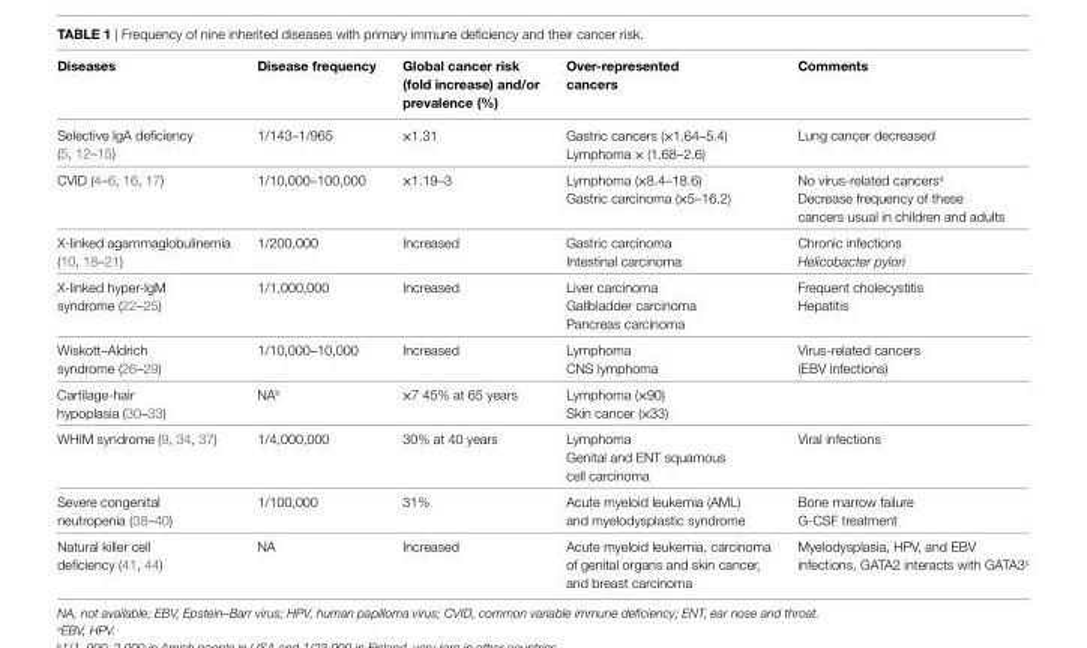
<table><thead><tr><td>Diseases</td><td>Disease frequency</td><td>Global cancer risk (fold increase) and/or prevalence (%)</td><td>Over-represented cancers</td><td>Comments</td></tr></thead><tbody><tr><td>Selective IgA deficiency (5, 12–15)</td><td>1/143–1/965</td><td>×1.31</td><td>Gastric cancers (×1.64–5.4) Lymphoma × (1.68–2.6)</td><td>Lung cancer decreased</td></tr><tr><td>CVID (4–6, 16, 17)</td><td>1/10,000–100,000</td><td>×1.19–3</td><td>Lymphoma (×8.4–18.6) Gastric carcinoma (×5–16.2)</td><td>No virus-related cancers<sup>a</sup> Decrease frequency of these cancers usual in children and adults</td></tr><tr><td>X-linked agammaglobulinemia (10, 18–21)</td><td>1/200,000</td><td>Increased</td><td>Gastric carcinoma Intestinal carcinoma</td><td>Chronic infections Helicobacter pylori</td></tr><tr><td>X-linked hyper-IgM syndrome (22–25)</td><td>1/1,000,000</td><td>Increased</td><td>Liver carcinoma Gallbladder carcinoma Pancreas carcinoma</td><td>Frequent cholecystitis Hepatitis</td></tr><tr><td>Wiskott–Aldrich syndrome (26–29)</td><td>1/10,000–10,000</td><td>Increased</td><td>Lymphoma CNS lymphoma</td><td>Virus-related cancers (EBV infections)</td></tr><tr><td>Cartilage-hair hypoplasia (30–33)</td><td>NA<sup>b</sup></td><td>×7 45% at 65 years</td><td>Lymphoma (×90) Skin cancer (×33)</td><td></td></tr><tr><td>WHIM syndrome (9, 34, 37)</td><td>1/4,000,000</td><td>30% at 40 years</td><td>Lymphoma Genital and ENT squamous cell carcinoma</td><td>Viral infections</td></tr><tr><td>Severe congenital neutropenia (38–40)</td><td>1/100,000</td><td>31%</td><td>Acute myeloid leukemia (AML) and myelodysplastic syndrome</td><td>Bone marrow failure G-CSF treatment</td></tr><tr><td>Natural killer cell deficiency (41, 44)</td><td>NA</td><td>Increased</td><td>Acute myeloid leukemia, carcinoma of genital organs and skin cancer, and breast carcinoma</td><td>Myelodysplasia, HPV, and EBV infections, GATA2 interacts with GATA3<sup>c</sup></td></tr></tbody></table>